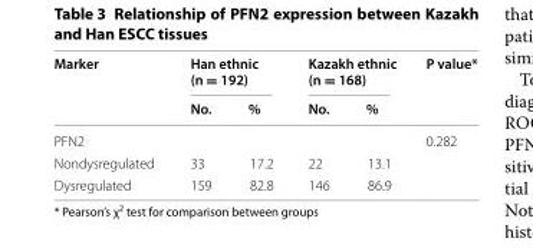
<table><thead><tr><td rowspan="2">Marker</td><td colspan="2">Han ethnic (n = 192)</td><td colspan="2">Kazakh ethnic (n = 168)</td><td rowspan="2">P value*</td></tr><tr><td>No.</td><td>%</td><td>No.</td><td>%</td></tr></thead><tbody><tr><td>PFN2</td><td></td><td></td><td></td><td></td><td>0.282</td></tr><tr><td>Nondysregulated</td><td>33</td><td>17.2</td><td>22</td><td>13.1</td><td></td></tr><tr><td>Dysregulated</td><td>159</td><td>82.8</td><td>146</td><td>86.9</td><td></td></tr></tbody></table>